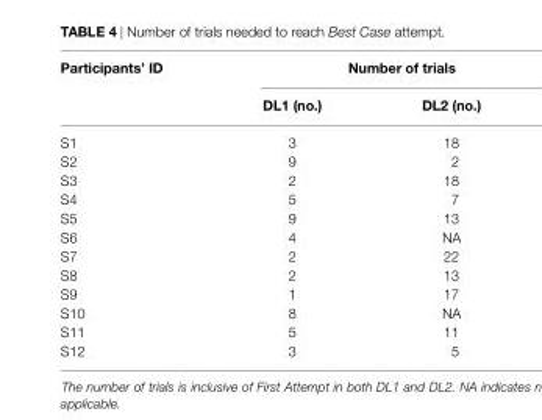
<table><thead><tr><td rowspan="2">Participants’ ID</td><td colspan="2">Number of trials</td></tr><tr><td>DL1 (no.)</td><td>DL2 (no.)</td></tr></thead><tbody><tr><td>S1</td><td>3</td><td>18</td></tr><tr><td>S2</td><td>9</td><td>2</td></tr><tr><td>S3</td><td>2</td><td>18</td></tr><tr><td>S4</td><td>5</td><td>7</td></tr><tr><td>S5</td><td>9</td><td>13</td></tr><tr><td>S6</td><td>4</td><td>NA</td></tr><tr><td>S7</td><td>2</td><td>22</td></tr><tr><td>S8</td><td>2</td><td>13</td></tr><tr><td>S9</td><td>1</td><td>17</td></tr><tr><td>S10</td><td>8</td><td>NA</td></tr><tr><td>S11</td><td>5</td><td>11</td></tr><tr><td>S12</td><td>3</td><td>5</td></tr></tbody></table>